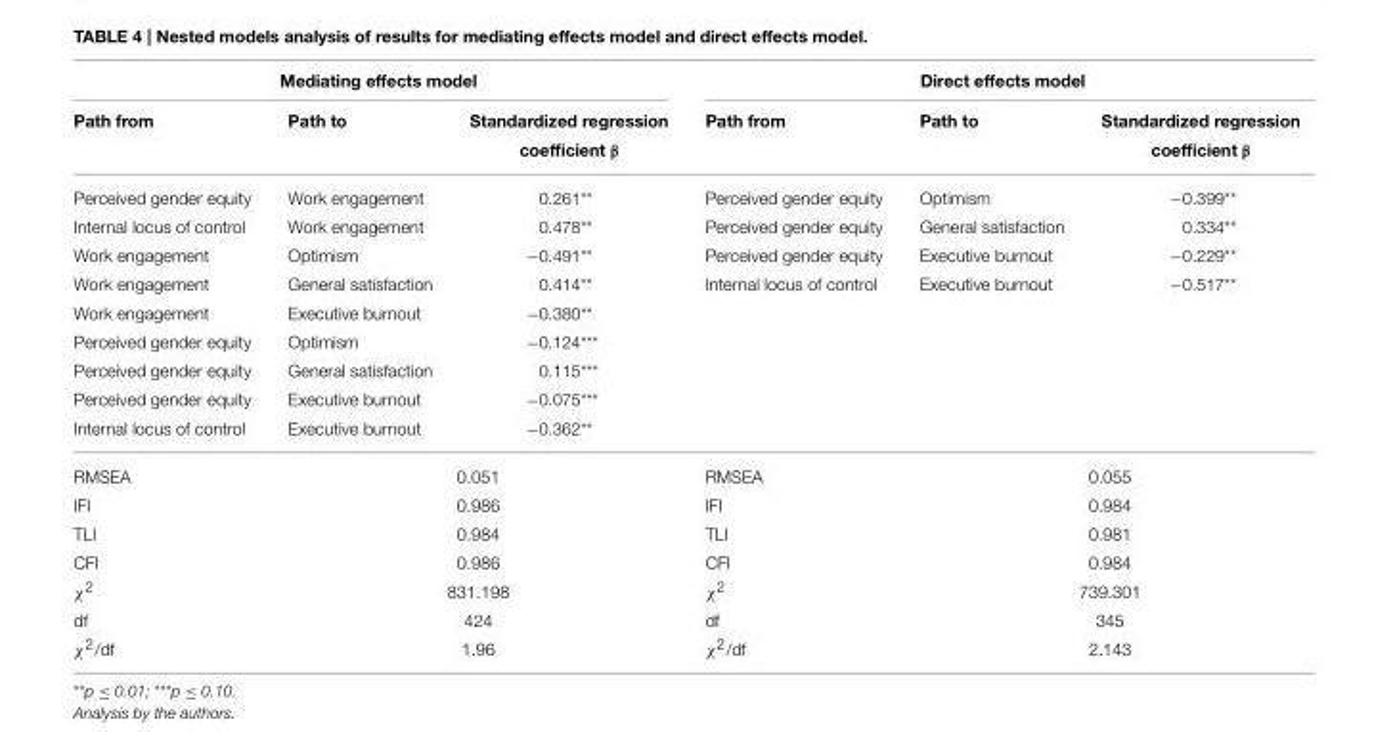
<table><thead><tr><td colspan="3">Mediating effects model</td><td colspan="3">Direct effects model</td></tr><tr><td>Path from</td><td>Path to</td><td>Standardized regression coefficient β</td><td>Path from</td><td>Path to</td><td>Standardized regression coefficient β</td></tr></thead><tbody><tr><td>Perceived gender equity</td><td>Work engagement</td><td>0.261**</td><td>Perceived gender equity</td><td>Optimism</td><td>−0.399**</td></tr><tr><td>Internal locus of control</td><td>Work engagement</td><td>0.478**</td><td>Perceived gender equity</td><td>General satisfaction</td><td>0.334**</td></tr><tr><td>Work engagement</td><td>Optimism</td><td>−0.491**</td><td>Perceived gender equity</td><td>Executive burnout</td><td>−0.229**</td></tr><tr><td>Work engagement</td><td>General satisfaction</td><td>0.414**</td><td>Internal locus of control</td><td>Executive burnout</td><td>−0.517**</td></tr><tr><td>Work engagement</td><td>Executive burnout</td><td>−0.380**</td><td></td><td></td><td></td></tr><tr><td>Perceived gender equity</td><td>Optimism</td><td>−0.124***</td><td></td><td></td><td></td></tr><tr><td>Perceived gender equity</td><td>General satisfaction</td><td>0.115***</td><td></td><td></td><td></td></tr><tr><td>Perceived gender equity</td><td>Executive burnout</td><td>−0.075***</td><td></td><td></td><td></td></tr><tr><td>Internal locus of control</td><td>Executive burnout</td><td>−0.362**</td><td></td><td></td><td></td></tr><tr><td>RMSEA</td><td colspan="2">0.051</td><td>RMSEA</td><td colspan="2">0.055</td></tr><tr><td>IFI</td><td colspan="2">0.986</td><td>IFI</td><td colspan="2">0.984</td></tr><tr><td>TLI</td><td colspan="2">0.984</td><td>TLI</td><td colspan="2">0.981</td></tr><tr><td>CFI</td><td colspan="2">0.986</td><td>CFI</td><td colspan="2">0.984</td></tr><tr><td>χ<sup>2</sup></td><td colspan="2">831.198</td><td>χ<sup>2</sup></td><td colspan="2">739.301</td></tr><tr><td>df</td><td colspan="2">424</td><td>df</td><td colspan="2">345</td></tr><tr><td>χ<sup>2</sup>/df</td><td colspan="2">1.96</td><td>χ<sup>2</sup>/df</td><td colspan="2">2.143</td></tr></tbody></table>